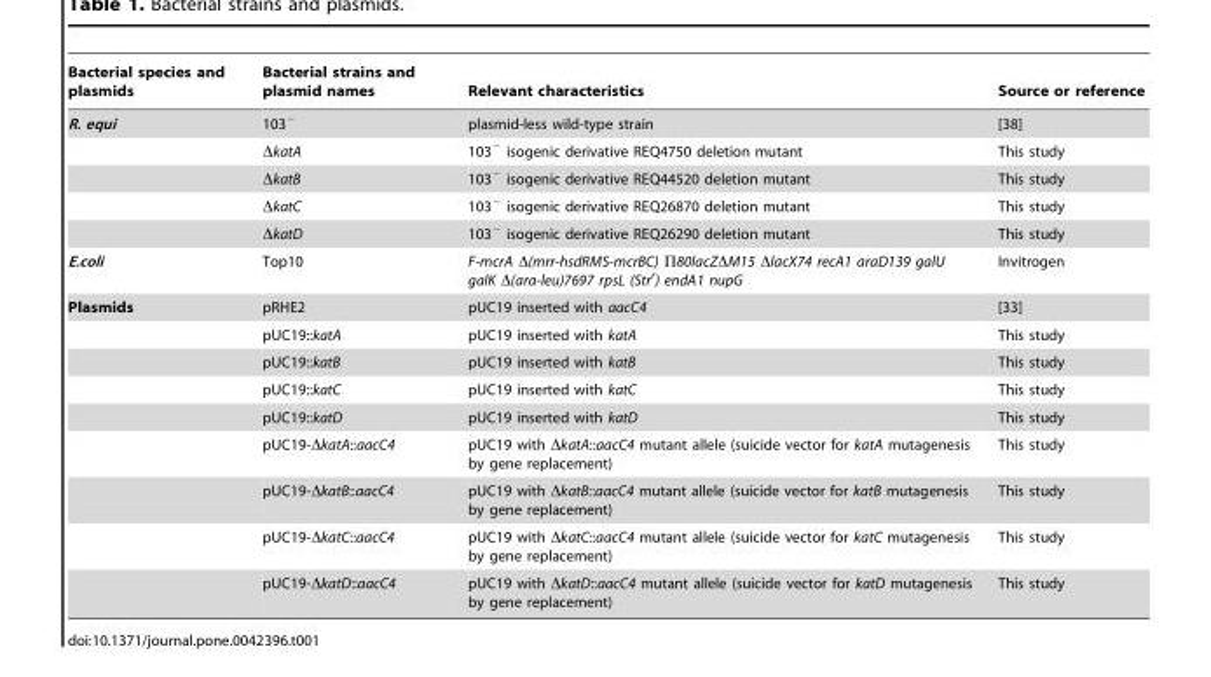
<table><thead><tr><td>Bacterial species and plasmids</td><td>Bacterial strains and plasmid names</td><td>Relevant characteristics</td><td>Source or reference</td></tr></thead><tbody><tr><td rowspan="5">R. equi</td><td>103<sup>−</sup></td><td>plasmid-less wild-type strain</td><td>[38]</td></tr><tr><td>ΔkatA</td><td>103<sup>−</sup> isogenic derivative REQ4750 deletion mutant</td><td>This study</td></tr><tr><td>ΔkatB</td><td>103<sup>−</sup> isogenic derivative REQ44520 deletion mutant</td><td>This study</td></tr><tr><td>ΔkatC</td><td>103<sup>−</sup> isogenic derivative REQ26870 deletion mutant</td><td>This study</td></tr><tr><td>ΔkatD</td><td>103<sup>−</sup> isogenic derivative REQ26290 deletion mutant</td><td>This study</td></tr><tr><td>E.coli</td><td>Top10</td><td>F-mcrA Δ(mrr-hsdRMS-mcrBC) Π80lacZΔM15 ΔlacX74 recA1 araD139 galU galK Δ(ara-leu)7697 rpsL (Str<sup>r</sup>) endA1 nupG</td><td>Invitrogen</td></tr><tr><td rowspan="9">Plasmids</td><td>pRHE2</td><td>pUC19 inserted with aacC4</td><td>[33]</td></tr><tr><td>pUC19::katA</td><td>pUC19 inserted with katA</td><td>This study</td></tr><tr><td>pUC19::katB</td><td>pUC19 inserted with katB</td><td>This study</td></tr><tr><td>pUC19::katC</td><td>pUC19 inserted with katC</td><td>This study</td></tr><tr><td>pUC19::katD</td><td>pUC19 inserted with katD</td><td>This study</td></tr><tr><td>pUC19-ΔkatA::aacC4</td><td>pUC19 with ΔkatA::aacC4 mutant allele (suicide vector for katA mutagenesis by gene replacement)</td><td>This study</td></tr><tr><td>pUC19-ΔkatB::aacC4</td><td>pUC19 with ΔkatB::aacC4 mutant allele (suicide vector for katB mutagenesis by gene replacement)</td><td>This study</td></tr><tr><td>pUC19-ΔkatC::aacC4</td><td>pUC19 with ΔkatC::aacC4 mutant allele (suicide vector for katC mutagenesis by gene replacement)</td><td>This study</td></tr><tr><td>pUC19-ΔkatD::aacC4</td><td>pUC19 with ΔkatD::aacC4 mutant allele (suicide vector for katD mutagenesis by gene replacement)</td><td>This study</td></tr></tbody></table>